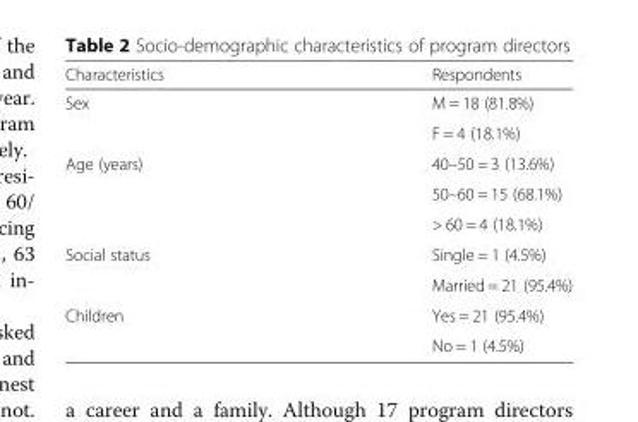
<table><thead><tr><td>Characteristics</td><td>Respondents</td></tr></thead><tbody><tr><td rowspan="2">Sex</td><td>M = 18 (81.8%)</td></tr><tr><td>F = 4 (18.1%)</td></tr><tr><td rowspan="3">Age (years)</td><td>40–50 = 3 (13.6%)</td></tr><tr><td>50–60 = 15 (68.1%)</td></tr><tr><td>&gt; 60 = 4 (18.1%)</td></tr><tr><td rowspan="2">Social status</td><td>Single = 1 (4.5%)</td></tr><tr><td>Married = 21 (95.4%)</td></tr><tr><td rowspan="2">Children</td><td>Yes = 21 (95.4%)</td></tr><tr><td>No = 1 (4.5%)</td></tr></tbody></table>